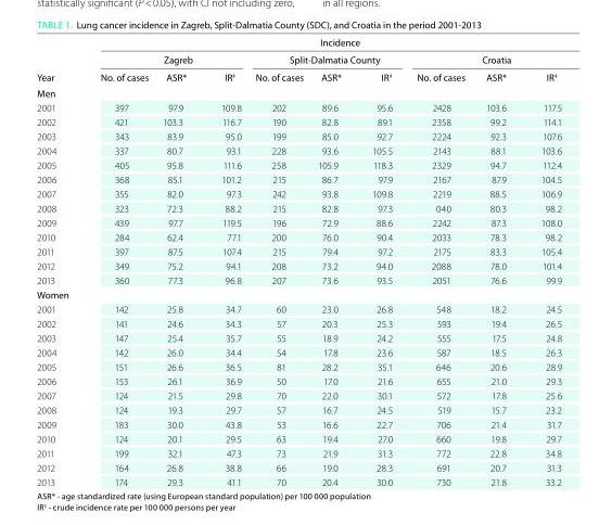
<table><thead><tr><td rowspan="3">Year</td><td colspan="9">Incidence</td></tr><tr><td colspan="3">Zagreb</td><td colspan="3">Split-Dalmatia County</td><td colspan="3">Croatia</td></tr><tr><td>No. of cases</td><td>ASR*</td><td>IR<sup>‡</sup></td><td>No. of cases</td><td>ASR*</td><td>IR<sup>‡</sup></td><td>No. of cases</td><td>ASR*</td><td>IR<sup>‡</sup></td></tr></thead><tbody><tr><td colspan="10">Men</td></tr><tr><td>2001</td><td>397</td><td>97.9</td><td>109.8</td><td>202</td><td>89.6</td><td>95.6</td><td>2428</td><td>103.6</td><td>117.5</td></tr><tr><td>2002</td><td>421</td><td>103.3</td><td>116.7</td><td>190</td><td>82.8</td><td>89.1</td><td>2358</td><td>99.2</td><td>114.1</td></tr><tr><td>2003</td><td>343</td><td>83.9</td><td>95.0</td><td>199</td><td>85.0</td><td>92.7</td><td>2224</td><td>92.3</td><td>107.6</td></tr><tr><td>2004</td><td>337</td><td>80.7</td><td>93.1</td><td>228</td><td>93.6</td><td>105.5</td><td>2143</td><td>88.1</td><td>103.6</td></tr><tr><td>2005</td><td>405</td><td>95.8</td><td>111.6</td><td>258</td><td>105.9</td><td>118.3</td><td>2329</td><td>94.7</td><td>112.4</td></tr><tr><td>2006</td><td>368</td><td>85.1</td><td>101.2</td><td>215</td><td>86.7</td><td>97.9</td><td>2167</td><td>87.9</td><td>104.5</td></tr><tr><td>2007</td><td>355</td><td>82.0</td><td>97.3</td><td>242</td><td>93.8</td><td>109.8</td><td>2219</td><td>88.5</td><td>106.9</td></tr><tr><td>2008</td><td>323</td><td>72.3</td><td>88.2</td><td>215</td><td>82.8</td><td>97.3</td><td>040</td><td>80.3</td><td>98.2</td></tr><tr><td>2009</td><td>439</td><td>97.7</td><td>119.5</td><td>196</td><td>72.9</td><td>88.6</td><td>2242</td><td>87.3</td><td>108.0</td></tr><tr><td>2010</td><td>284</td><td>62.4</td><td>77.1</td><td>200</td><td>76.0</td><td>90.4</td><td>2033</td><td>78.3</td><td>98.2</td></tr><tr><td>2011</td><td>397</td><td>87.5</td><td>107.4</td><td>215</td><td>79.4</td><td>97.2</td><td>2175</td><td>83.3</td><td>105.4</td></tr><tr><td>2012</td><td>349</td><td>75.2</td><td>94.1</td><td>208</td><td>73.2</td><td>94.0</td><td>2088</td><td>78.0</td><td>101.4</td></tr><tr><td>2013</td><td>360</td><td>77.3</td><td>96.8</td><td>207</td><td>73.6</td><td>93.5</td><td>2051</td><td>76.6</td><td>99.9</td></tr><tr><td colspan="10">Women</td></tr><tr><td>2001</td><td>142</td><td>25.8</td><td>34.7</td><td>60</td><td>23.0</td><td>26.8</td><td>548</td><td>18.2</td><td>24.5</td></tr><tr><td>2002</td><td>141</td><td>24.6</td><td>34.3</td><td>57</td><td>20.3</td><td>25.3</td><td>593</td><td>19.4</td><td>26.5</td></tr><tr><td>2003</td><td>147</td><td>25.4</td><td>35.7</td><td>55</td><td>18.9</td><td>24.2</td><td>555</td><td>17.5</td><td>24.8</td></tr><tr><td>2004</td><td>142</td><td>26.0</td><td>34.4</td><td>54</td><td>17.8</td><td>23.6</td><td>587</td><td>18.5</td><td>26.3</td></tr><tr><td>2005</td><td>151</td><td>26.6</td><td>36.5</td><td>81</td><td>28.2</td><td>35.1</td><td>646</td><td>20.6</td><td>28.9</td></tr><tr><td>2006</td><td>153</td><td>26.1</td><td>36.9</td><td>50</td><td>17.0</td><td>21.6</td><td>655</td><td>21.0</td><td>29.3</td></tr><tr><td>2007</td><td>124</td><td>21.5</td><td>29.8</td><td>70</td><td>22.0</td><td>30.1</td><td>572</td><td>17.8</td><td>25.6</td></tr><tr><td>2008</td><td>124</td><td>19.3</td><td>29.7</td><td>57</td><td>16.7</td><td>24.5</td><td>519</td><td>15.7</td><td>23.2</td></tr><tr><td>2009</td><td>183</td><td>30.0</td><td>43.8</td><td>53</td><td>16.6</td><td>22.7</td><td>706</td><td>21.4</td><td>31.7</td></tr><tr><td>2010</td><td>124</td><td>20.1</td><td>29.5</td><td>63</td><td>19.4</td><td>27.0</td><td>660</td><td>19.8</td><td>29.7</td></tr><tr><td>2011</td><td>199</td><td>32.1</td><td>47.3</td><td>73</td><td>21.9</td><td>31.3</td><td>772</td><td>22.8</td><td>34.8</td></tr><tr><td>2012</td><td>164</td><td>26.8</td><td>38.8</td><td>66</td><td>19.0</td><td>28.3</td><td>691</td><td>20.7</td><td>31.3</td></tr><tr><td>2013</td><td>174</td><td>29.3</td><td>41.1</td><td>70</td><td>20.4</td><td>30.0</td><td>730</td><td>21.8</td><td>33.2</td></tr></tbody></table>